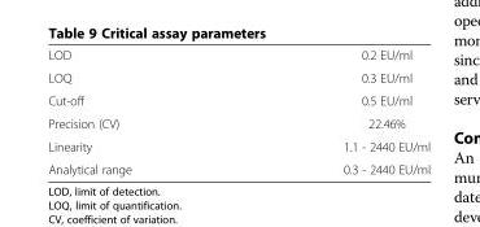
<table><tbody><tr><td>LOD</td><td>0.2 EU/ml</td></tr><tr><td>LOQ</td><td>0.3 EU/ml</td></tr><tr><td>Cut-off</td><td>0.5 EU/ml</td></tr><tr><td>Precision (CV)</td><td>22.46%</td></tr><tr><td>Linearity</td><td>1.1 - 2440 EU/ml</td></tr><tr><td>Analytical range</td><td>0.3 - 2440 EU/ml</td></tr></tbody></table>